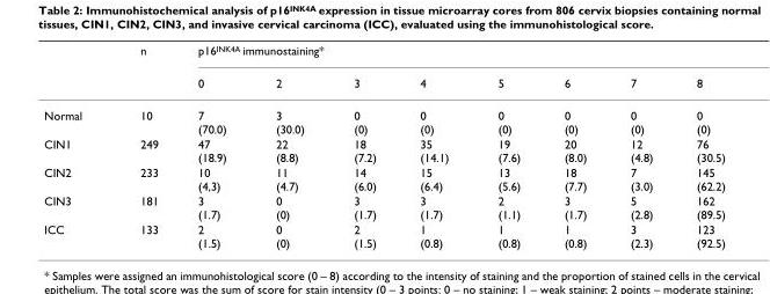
<table><thead><tr><td rowspan="2"></td><td rowspan="2">n</td><td colspan="8">p16<sup>INK4A</sup> immunostaining*</td></tr><tr><td>0</td><td>2</td><td>3</td><td>4</td><td>5</td><td>6</td><td>7</td><td>8</td></tr></thead><tbody><tr><td>Normal</td><td>10</td><td>7 (70.0)</td><td>3 (30.0)</td><td>0 (0)</td><td>0 (0)</td><td>0 (0)</td><td>0 (0)</td><td>0 (0)</td><td>0 (0)</td></tr><tr><td>CIN1</td><td>249</td><td>47 (18.9)</td><td>22 (8.8)</td><td>18 (7.2)</td><td>35 (14.1)</td><td>19 (7.6)</td><td>20 (8.0)</td><td>12 (4.8)</td><td>76 (30.5)</td></tr><tr><td>CIN2</td><td>233</td><td>10 (4,3)</td><td>11 (4.7)</td><td>14 (6.0)</td><td>15 (6.4)</td><td>13 (5.6)</td><td>18 (7.7)</td><td>7 (3.0)</td><td>145 (62.2)</td></tr><tr><td>CIN3</td><td>181</td><td>3 (1.7)</td><td>0 (0)</td><td>3 (1.7)</td><td>3 (1.7)</td><td>2 (1.1)</td><td>3 (1.7)</td><td>5 (2.8)</td><td>162 (89.5)</td></tr><tr><td>ICC</td><td>133</td><td>2 (1.5)</td><td>0 (0)</td><td>2 (1.5)</td><td>1 (0.8)</td><td>1 (0.8)</td><td>1 (0.8)</td><td>3 (2.3)</td><td>123 (92.5)</td></tr></tbody></table>